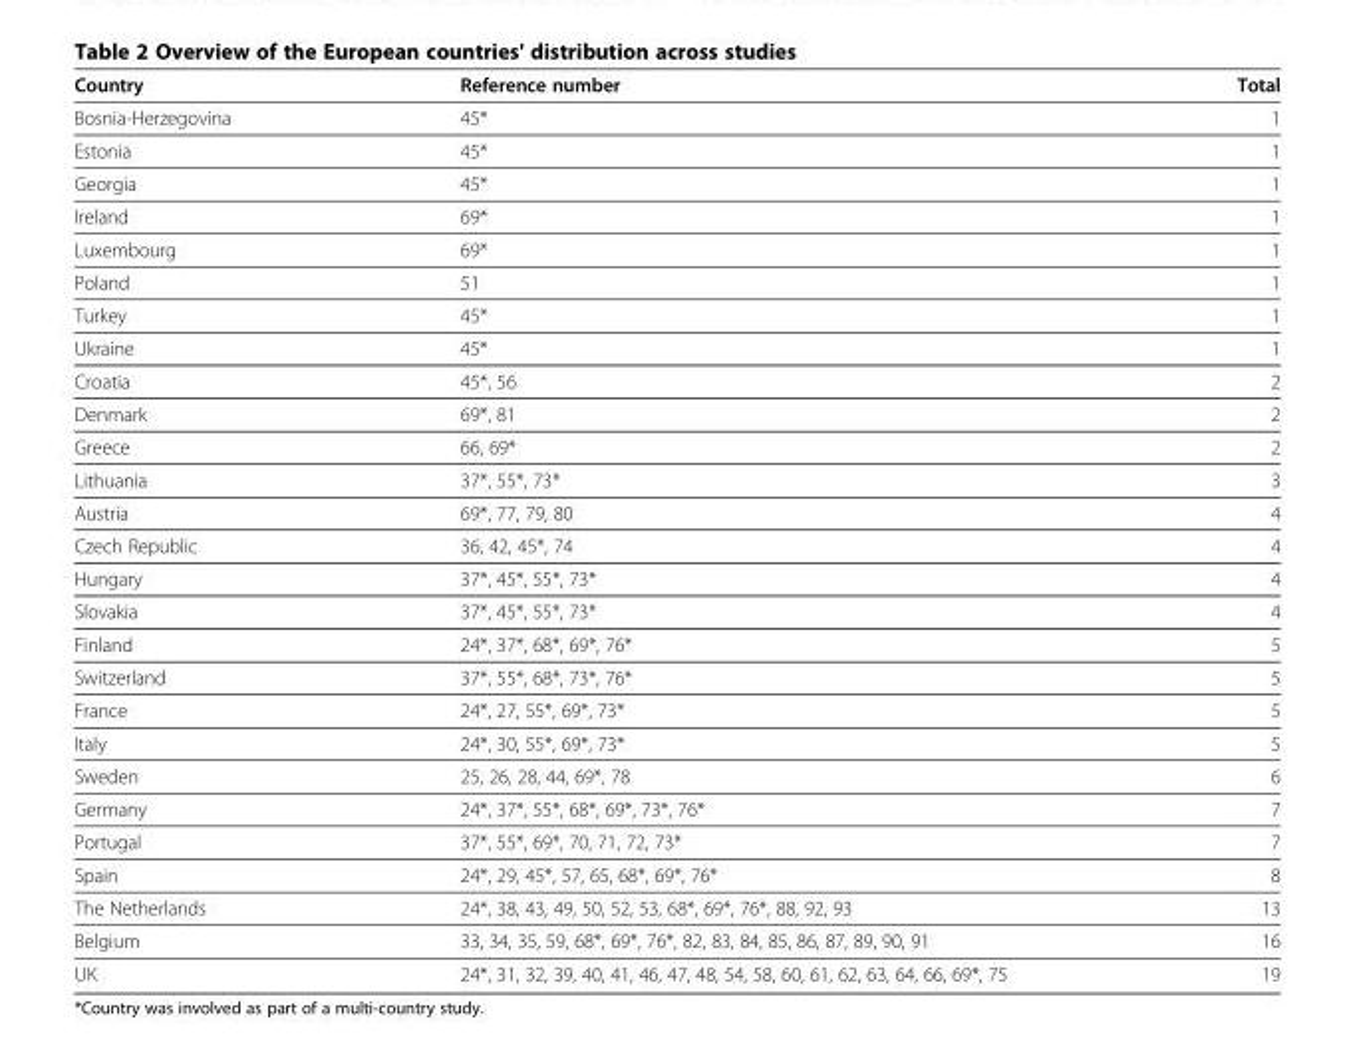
<table><thead><tr><td>Country</td><td>Reference number</td><td>Total</td></tr></thead><tbody><tr><td>Bosnia-Herzegovina</td><td>45*</td><td>1</td></tr><tr><td>Estonia</td><td>45*</td><td>1</td></tr><tr><td>Georgia</td><td>45*</td><td>1</td></tr><tr><td>Ireland</td><td>69*</td><td>1</td></tr><tr><td>Luxembourg</td><td>69*</td><td>1</td></tr><tr><td>Poland</td><td>51</td><td>1</td></tr><tr><td>Turkey</td><td>45*</td><td>1</td></tr><tr><td>Ukraine</td><td>45*</td><td>1</td></tr><tr><td>Croatia</td><td>45*, 56</td><td>2</td></tr><tr><td>Denmark</td><td>69*, 81</td><td>2</td></tr><tr><td>Greece</td><td>66, 69*</td><td>2</td></tr><tr><td>Lithuania</td><td>37*, 55*, 73*</td><td>3</td></tr><tr><td>Austria</td><td>69*, 77, 79, 80</td><td>4</td></tr><tr><td>Czech Republic</td><td>36, 42, 45*, 74</td><td>4</td></tr><tr><td>Hungary</td><td>37*, 45*, 55*, 73*</td><td>4</td></tr><tr><td>Slovakia</td><td>37*, 45*, 55*, 73*</td><td>4</td></tr><tr><td>Finland</td><td>24*, 37*, 68*, 69*, 76*</td><td>5</td></tr><tr><td>Switzerland</td><td>37*, 55*, 68*, 73*, 76*</td><td>5</td></tr><tr><td>France</td><td>24*, 27, 55*, 69*, 73*</td><td>5</td></tr><tr><td>Italy</td><td>24*, 30, 55*, 69*, 73*</td><td>5</td></tr><tr><td>Sweden</td><td>25, 26, 28, 44, 69*, 78</td><td>6</td></tr><tr><td>Germany</td><td>24*, 37*, 55*, 68*, 69*, 73*, 76*</td><td>7</td></tr><tr><td>Portugal</td><td>37*, 55*, 69*, 70, 71, 72, 73*</td><td>7</td></tr><tr><td>Spain</td><td>24*, 29, 45*, 57, 65, 68*, 69*, 76*</td><td>8</td></tr><tr><td>The Netherlands</td><td>24*, 38, 43, 49, 50, 52, 53, 68*, 69*, 76*, 88, 92, 93</td><td>13</td></tr><tr><td>Belgium</td><td>33, 34, 35, 59, 68*, 69*, 76*, 82, 83, 84, 85, 86, 87, 89, 90, 91</td><td>16</td></tr><tr><td>UK</td><td>24*, 31, 32, 39, 40, 41, 46, 47, 48, 54, 58, 60, 61, 62, 63, 64, 66, 69*, 75</td><td>19</td></tr></tbody></table>